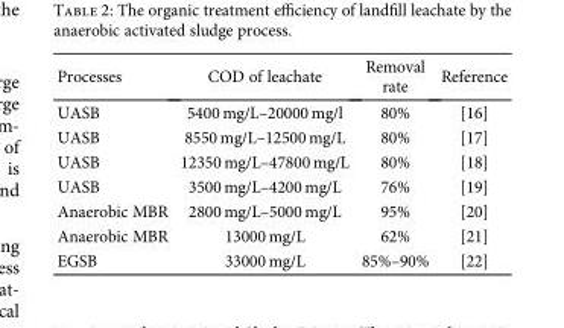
<table><thead><tr><td>Processes</td><td>COD of leachate</td><td>Removal rate</td><td>Reference</td></tr></thead><tbody><tr><td>UASB</td><td>5400 mg/L–20000 mg/l</td><td>80%</td><td>[16]</td></tr><tr><td>UASB</td><td>8550 mg/L–12500 mg/L</td><td>80%</td><td>[17]</td></tr><tr><td>UASB</td><td>12350 mg/L–47800 mg/L</td><td>80%</td><td>[18]</td></tr><tr><td>UASB</td><td>3500 mg/L–4200 mg/L</td><td>76%</td><td>[19]</td></tr><tr><td>Anaerobic MBR</td><td>2800 mg/L–5000 mg/L</td><td>95%</td><td>[20]</td></tr><tr><td>Anaerobic MBR</td><td>13000 mg/L</td><td>62%</td><td>[21]</td></tr><tr><td>EGSB</td><td>33000 mg/L</td><td>85%–90%</td><td>[22]</td></tr></tbody></table>